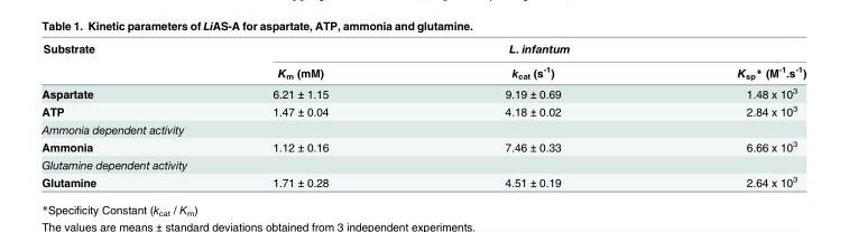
<table><thead><tr><td rowspan="2">Substrate</td><td colspan="3">L. infantum</td></tr><tr><td>K<sub>m</sub> (mM)</td><td>k<sub>cat</sub> (s<sup>-1</sup>)</td><td>K<sub>sp</sub>* (M<sup>-1</sup>.s<sup>-1</sup>)</td></tr></thead><tbody><tr><td>Aspartate</td><td>6.21 ± 1.15</td><td>9.19 ± 0.69</td><td>1.48 x 10<sup>3</sup></td></tr><tr><td>ATP</td><td>1.47 ± 0.04</td><td>4.18 ± 0.02</td><td>2.84 x 10<sup>3</sup></td></tr><tr><td colspan="4">Ammonia dependent activity</td></tr><tr><td>Ammonia</td><td>1.12 ± 0.16</td><td>7.46 ± 0.33</td><td>6.66 x 10<sup>3</sup></td></tr><tr><td colspan="4">Glutamine dependent activity</td></tr><tr><td>Glutamine</td><td>1.71 ± 0.28</td><td>4.51 ± 0.19</td><td>2.64 x 10<sup>3</sup></td></tr></tbody></table>